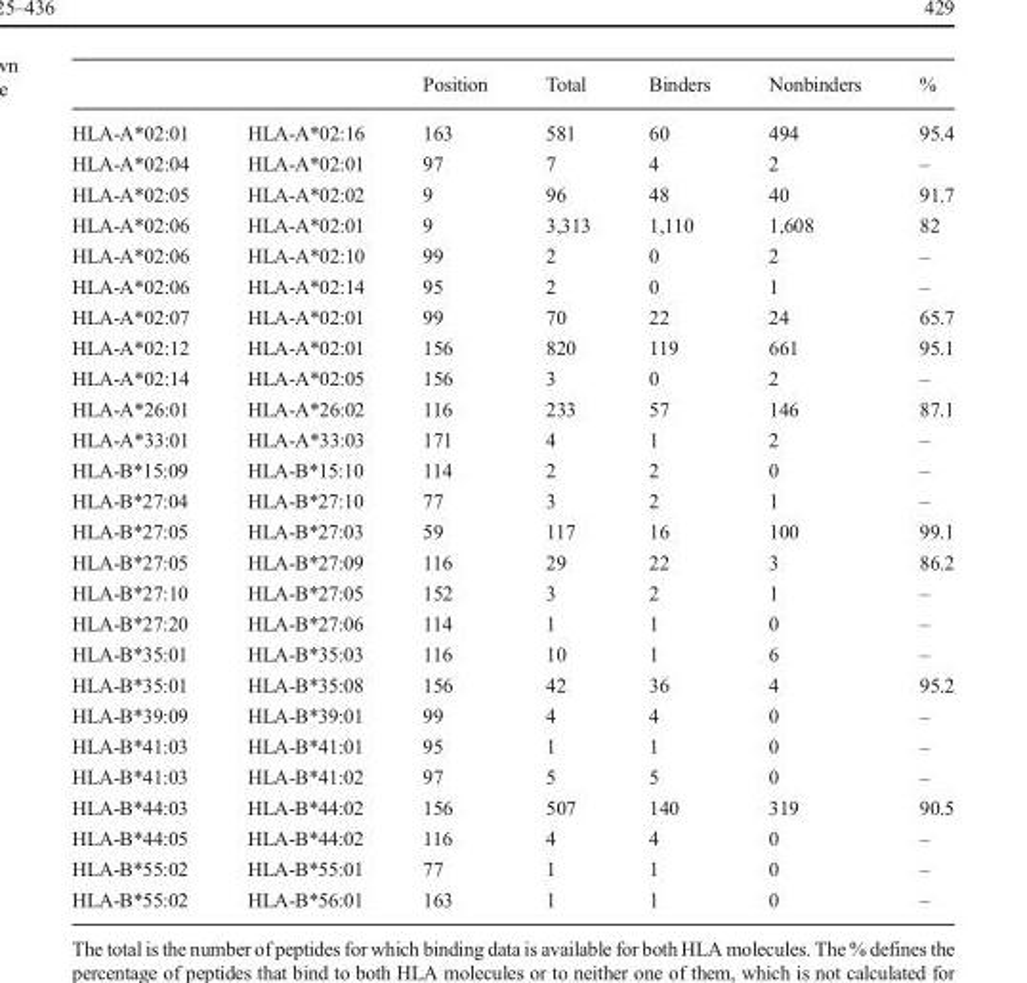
<table><thead><tr><td></td><td></td><td>Position</td><td>Total</td><td>Binders</td><td>Nonbinders</td><td>%</td></tr></thead><tbody><tr><td>HLA-A*02:01</td><td>HLA-A*02:16</td><td>163</td><td>581</td><td>60</td><td>494</td><td>95.4</td></tr><tr><td>HLA-A*02:04</td><td>HLA-A*02:01</td><td>97</td><td>7</td><td>4</td><td>2</td><td>–</td></tr><tr><td>HLA-A*02:05</td><td>HLA-A*02:02</td><td>9</td><td>96</td><td>48</td><td>40</td><td>91.7</td></tr><tr><td>HLA-A*02:06</td><td>HLA-A*02:01</td><td>9</td><td>3,313</td><td>1,110</td><td>1,608</td><td>82</td></tr><tr><td>HLA-A*02:06</td><td>HLA-A*02:10</td><td>99</td><td>2</td><td>0</td><td>2</td><td>–</td></tr><tr><td>HLA-A*02:06</td><td>HLA-A*02:14</td><td>95</td><td>2</td><td>0</td><td>1</td><td>–</td></tr><tr><td>HLA-A*02:07</td><td>HLA-A*02:01</td><td>99</td><td>70</td><td>22</td><td>24</td><td>65.7</td></tr><tr><td>HLA-A*02:12</td><td>HLA-A*02:01</td><td>156</td><td>820</td><td>119</td><td>661</td><td>95.1</td></tr><tr><td>HLA-A*02:14</td><td>HLA-A*02:05</td><td>156</td><td>3</td><td>0</td><td>2</td><td>–</td></tr><tr><td>HLA-A*26:01</td><td>HLA-A*26:02</td><td>116</td><td>233</td><td>57</td><td>146</td><td>87.1</td></tr><tr><td>HLA-A*33:01</td><td>HLA-A*33:03</td><td>171</td><td>4</td><td>1</td><td>2</td><td>–</td></tr><tr><td>HLA-B*15:09</td><td>HLA-B*15:10</td><td>114</td><td>2</td><td>2</td><td>0</td><td>–</td></tr><tr><td>HLA-B*27:04</td><td>HLA-B*27:10</td><td>77</td><td>3</td><td>2</td><td>1</td><td>–</td></tr><tr><td>HLA-B*27:05</td><td>HLA-B*27:03</td><td>59</td><td>117</td><td>16</td><td>100</td><td>99.1</td></tr><tr><td>HLA-B*27:05</td><td>HLA-B*27:09</td><td>116</td><td>29</td><td>22</td><td>3</td><td>86.2</td></tr><tr><td>HLA-B*27:10</td><td>HLA-B*27:05</td><td>152</td><td>3</td><td>2</td><td>1</td><td>–</td></tr><tr><td>HLA-B*27:20</td><td>HLA-B*27:06</td><td>114</td><td>1</td><td>1</td><td>0</td><td>–</td></tr><tr><td>HLA-B*35:01</td><td>HLA-B*35:03</td><td>116</td><td>10</td><td>1</td><td>6</td><td>–</td></tr><tr><td>HLA-B*35:01</td><td>HLA-B*35:08</td><td>156</td><td>42</td><td>36</td><td>4</td><td>95.2</td></tr><tr><td>HLA-B*39:09</td><td>HLA-B*39:01</td><td>99</td><td>4</td><td>4</td><td>0</td><td>–</td></tr><tr><td>HLA-B*41:03</td><td>HLA-B*41:01</td><td>95</td><td>1</td><td>1</td><td>0</td><td>–</td></tr><tr><td>HLA-B*41:03</td><td>HLA-B*41:02</td><td>97</td><td>5</td><td>5</td><td>0</td><td>–</td></tr><tr><td>HLA-B*44:03</td><td>HLA-B*44:02</td><td>156</td><td>507</td><td>140</td><td>319</td><td>90.5</td></tr><tr><td>HLA-B*44:05</td><td>HLA-B*44:02</td><td>116</td><td>4</td><td>4</td><td>0</td><td>–</td></tr><tr><td>HLA-B*55:02</td><td>HLA-B*55:01</td><td>77</td><td>1</td><td>1</td><td>0</td><td>–</td></tr><tr><td>HLA-B*55:02</td><td>HLA-B*56:01</td><td>163</td><td>1</td><td>1</td><td>0</td><td>–</td></tr></tbody></table>